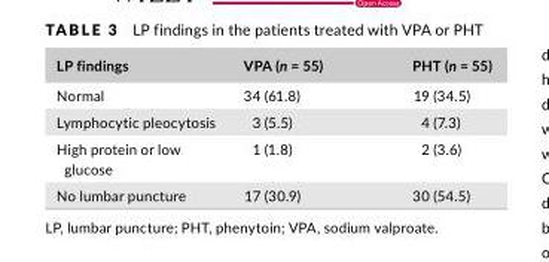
<table><thead><tr><td>LP findings</td><td>VPA (n = 55)</td><td>PHT (n = 55)</td></tr></thead><tbody><tr><td>Normal</td><td>34 (61.8)</td><td>19 (34.5)</td></tr><tr><td>Lymphocytic pleocytosis</td><td>3 (5.5)</td><td>4 (7.3)</td></tr><tr><td>High protein or low glucose</td><td>1 (1.8)</td><td>2 (3.6)</td></tr><tr><td>No lumbar puncture</td><td>17 (30.9)</td><td>30 (54.5)</td></tr></tbody></table>